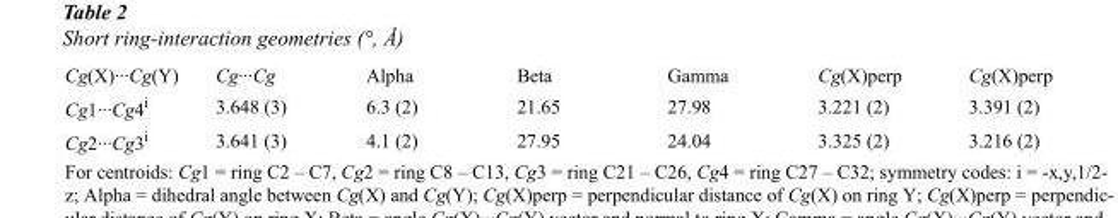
<table><tbody><tr><td>Cg(X)···Cg(Y)</td><td>Cg···Cg</td><td>Alpha</td><td>Beta</td><td>Gamma</td><td>Cg(X)perp</td><td>Cg(X)perp</td></tr><tr><td>Cg1···Cg4<sup>i</sup></td><td>3.648 (3)</td><td>6.3 (2)</td><td>21.65</td><td>27.98</td><td>3.221 (2)</td><td>3.391 (2)</td></tr><tr><td>Cg2···Cg3<sup>i</sup></td><td>3.641 (3)</td><td>4.1 (2)</td><td>27.95</td><td>24.04</td><td>3.325 (2)</td><td>3.216 (2)</td></tr></tbody></table>